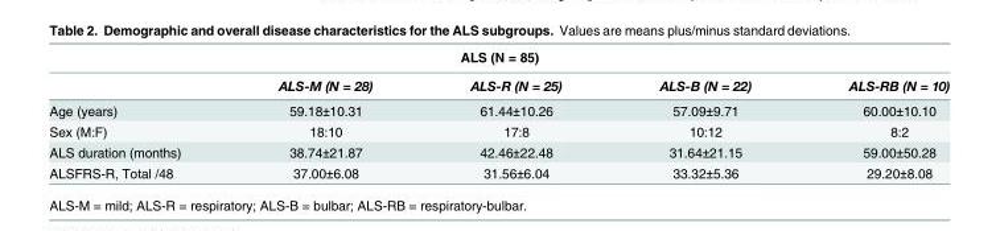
<table><thead><tr><td colspan="5">ALS (N = 85)</td></tr><tr><td></td><td>ALS-M (N = 28)</td><td>ALS-R (N = 25)</td><td>ALS-B (N = 22)</td><td>ALS-RB (N = 10)</td></tr></thead><tbody><tr><td>Age (years)</td><td>59.18±10.31</td><td>61.44±10.26</td><td>57.09±9.71</td><td>60.00±10.10</td></tr><tr><td>Sex (M:F)</td><td>18:10</td><td>17:8</td><td>10:12</td><td>8:2</td></tr><tr><td>ALS duration (months)</td><td>38.74±21.87</td><td>42.46±22.48</td><td>31.64±21.15</td><td>59.00±50.28</td></tr><tr><td>ALSFRS-R, Total /48</td><td>37.00±6.08</td><td>31.56±6.04</td><td>33.32±5.36</td><td>29.20±8.08</td></tr></tbody></table>